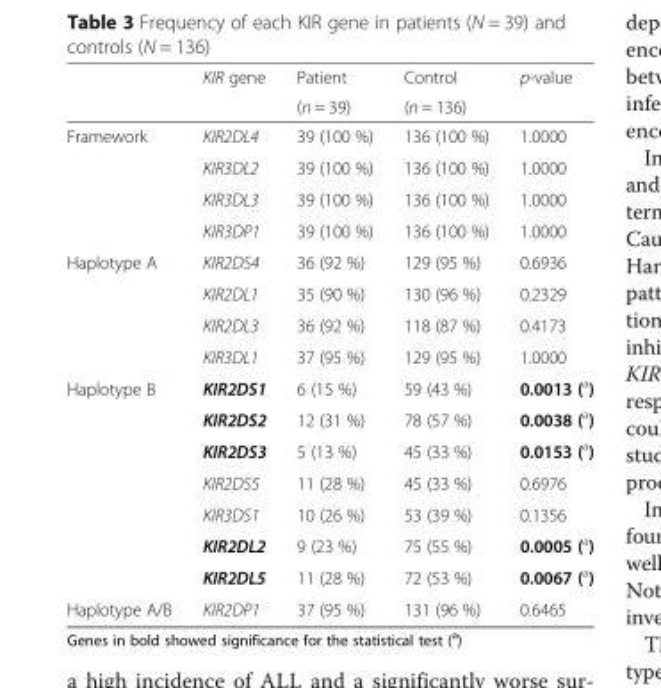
<table><thead><tr><td rowspan="2"></td><td rowspan="2">KIR gene</td><td rowspan="2">Patient (n = 39)</td><td rowspan="2">Control (n = 136)</td><td rowspan="2">p-value</td></tr><tr></tr></thead><tbody><tr><td rowspan="4">Framework</td><td>KIR2DL4</td><td>39 (100 %)</td><td>136 (100 %)</td><td>1.0000</td></tr><tr><td>KIR3DL2</td><td>39 (100 %)</td><td>136 (100 %)</td><td>1.0000</td></tr><tr><td>KIR3DL3</td><td>39 (100 %)</td><td>136 (100 %)</td><td>1.0000</td></tr><tr><td>KIR3DP1</td><td>39 (100 %)</td><td>136 (100 %)</td><td>1.0000</td></tr><tr><td rowspan="4">Haplotype A</td><td>KIR2DS4</td><td>36 (92 %)</td><td>129 (95 %)</td><td>0.6936</td></tr><tr><td>KIR2DL1</td><td>35 (90 %)</td><td>130 (96 %)</td><td>0.2329</td></tr><tr><td>KIR2DL3</td><td>36 (92 %)</td><td>118 (87 %)</td><td>0.4173</td></tr><tr><td>KIR3DL1</td><td>37 (95 %)</td><td>129 (95 %)</td><td>1.0000</td></tr><tr><td rowspan="7">Haplotype B</td><td>KIR2DS1</td><td>6 (15 %)</td><td>59 (43 %)</td><td>0.0013 (<sup>a</sup>)</td></tr><tr><td>KIR2DS2</td><td>12 (31 %)</td><td>78 (57 %)</td><td>0.0038 (<sup>a</sup>)</td></tr><tr><td>KIR2DS3</td><td>5 (13 %)</td><td>45 (33 %)</td><td>0.0153 (<sup>a</sup>)</td></tr><tr><td>KIR2DS5</td><td>11 (28 %)</td><td>45 (33 %)</td><td>0.6976</td></tr><tr><td>KIR3DS1</td><td>10 (26 %)</td><td>53 (39 %)</td><td>0.1356</td></tr><tr><td>KIR2DL2</td><td>9 (23 %)</td><td>75 (55 %)</td><td>0.0005 (<sup>a</sup>)</td></tr><tr><td>KIR2DL5</td><td>11 (28 %)</td><td>72 (53 %)</td><td>0.0067 (<sup>a</sup>)</td></tr><tr><td>Haplotype A/B</td><td>KIR2DP1</td><td>37 (95 %)</td><td>131 (96 %)</td><td>0.6465</td></tr></tbody></table>